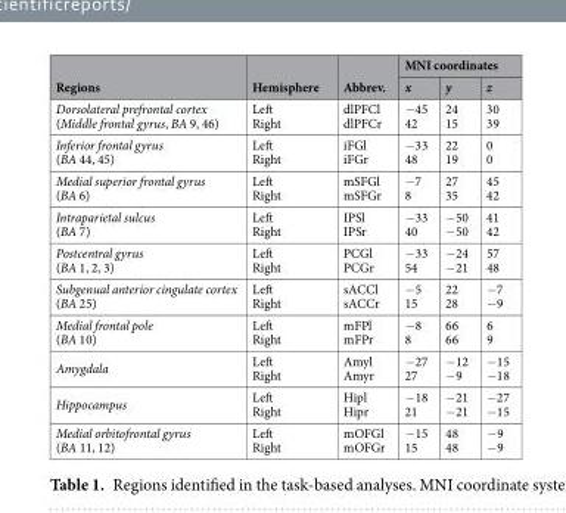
<table><thead><tr><td rowspan="2">Regions</td><td rowspan="2">Hemisphere</td><td rowspan="2">Abbrev.</td><td colspan="3">MNI coordinates</td></tr><tr><td>x</td><td>y</td><td>z</td></tr></thead><tbody><tr><td>Dorsolateral prefrontal cortex (Middle frontal gyrus, BA 9, 46)</td><td>Left Right</td><td>dlPFCl dlPFCr</td><td>−45 42</td><td>24 15</td><td>30 39</td></tr><tr><td>Inferior frontal gyrus (BA 44, 45)</td><td>Left Right</td><td>iFGl iFGr</td><td>−33 48</td><td>22 19</td><td>0 0</td></tr><tr><td>Medial superior frontal gyrus (BA 6)</td><td>Left Right</td><td>mSFGl mSFGr</td><td>−7 8</td><td>27 35</td><td>45 42</td></tr><tr><td>Intraparietal sulcus (BA 7)</td><td>Left Right</td><td>IPSl IPSr</td><td>−33 40</td><td>−50 −50</td><td>41 42</td></tr><tr><td>Postcentral gyrus (BA 1, 2, 3)</td><td>Left Right</td><td>PCGl PCGr</td><td>−33 54</td><td>−24 −21</td><td>57 48</td></tr><tr><td>Subgenual anterior cingulate cortex (BA 25)</td><td>Left Right</td><td>sACCl sACCr</td><td>−5 15</td><td>22 28</td><td>−7 −9</td></tr><tr><td>Medial frontal pole (BA 10)</td><td>Left Right</td><td>mFPl mFPr</td><td>−8 8</td><td>66 66</td><td>6 9</td></tr><tr><td>Amygdala</td><td>Left Right</td><td>Amyl Amyr</td><td>−27 27</td><td>−12 −9</td><td>−15 −18</td></tr><tr><td>Hippocampus</td><td>Left Right</td><td>Hipl Hipr</td><td>−18 21</td><td>−21 −21</td><td>−27 −15</td></tr><tr><td>Medial orbitofrontal gyrus (BA 11, 12)</td><td>Left Right</td><td>mOFGl mOFGr</td><td>−15 15</td><td>48 48</td><td>−9 −9</td></tr></tbody></table>